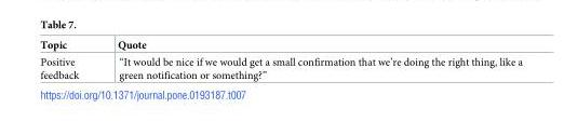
<table><thead><tr><td>Topic</td><td>Quote</td></tr></thead><tbody><tr><td>Positive feedback</td><td>“It would be nice if we would get a small confirmation that we’re doing the right thing, like a green notification or something?”</td></tr></tbody></table>